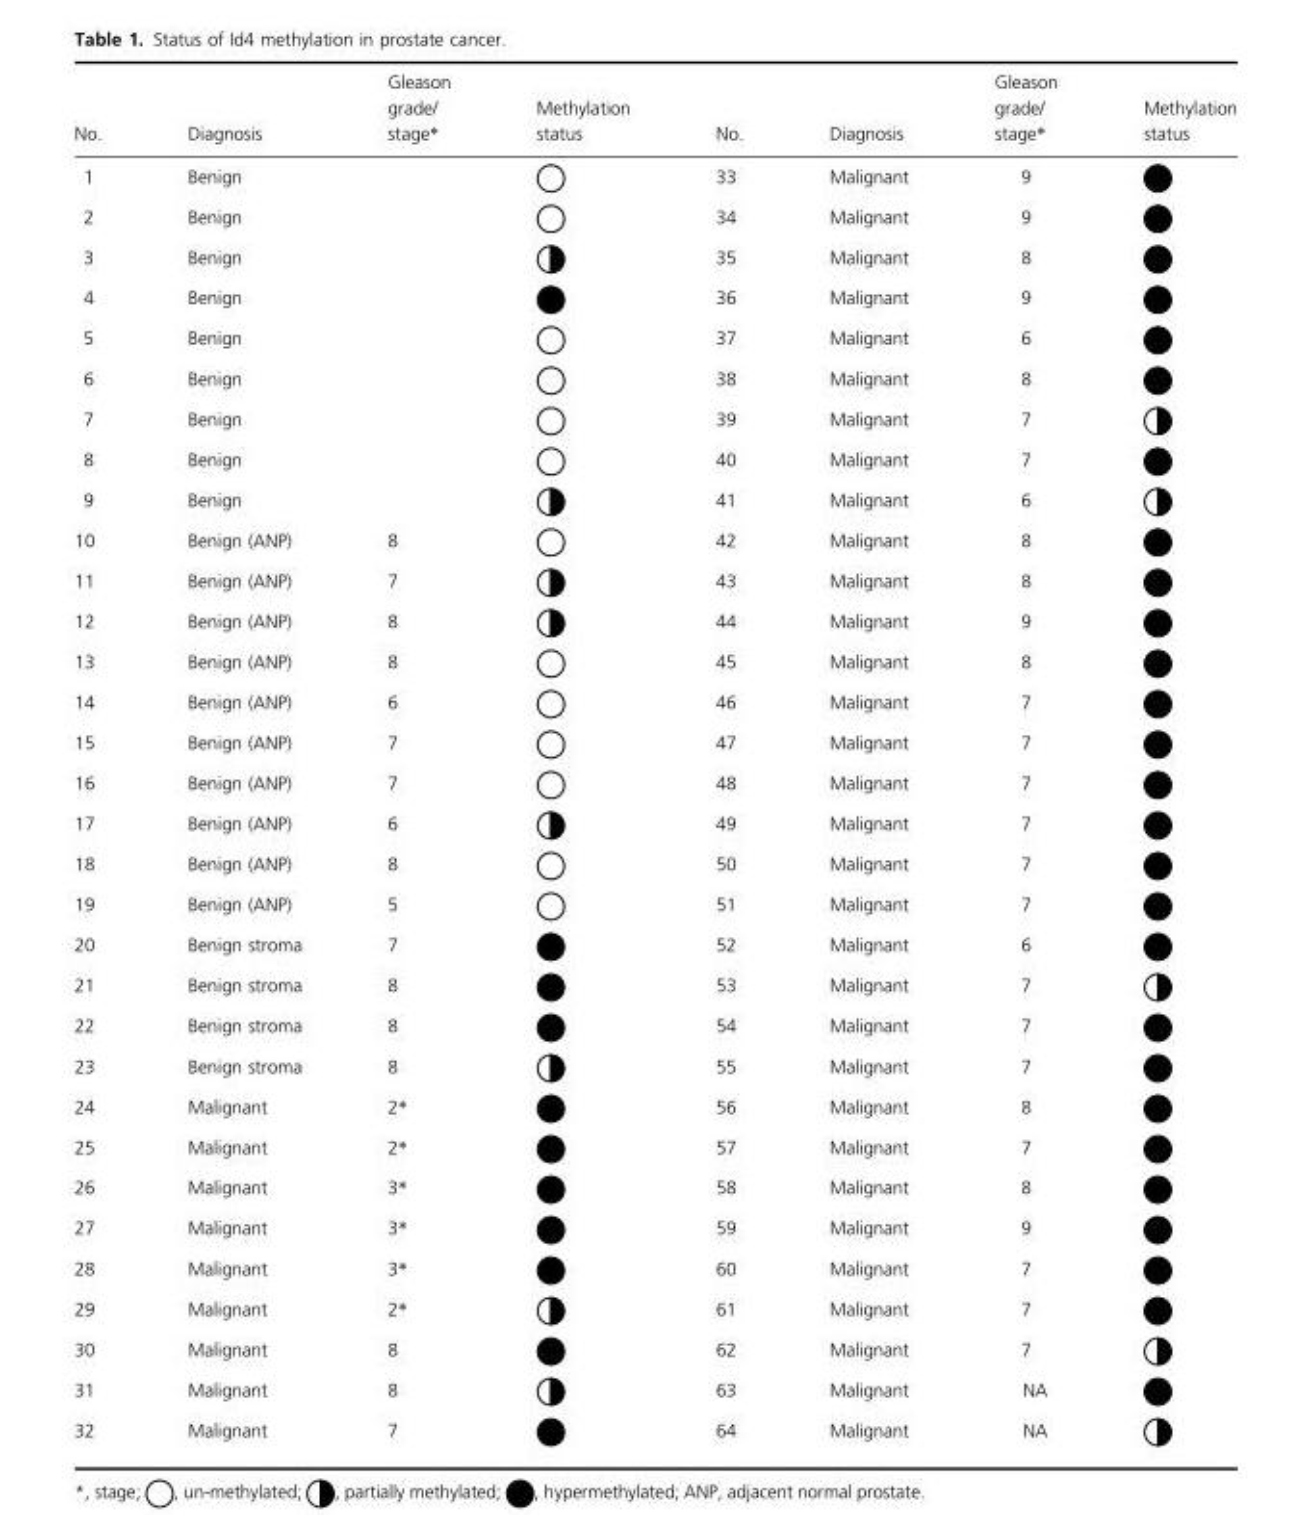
<table><thead><tr><td>No.</td><td>Diagnosis</td><td>Gleason grade/ stage*</td><td>Methylation status</td><td>No.</td><td>Diagnosis</td><td>Gleason grade/ stage*</td><td>Methylation status</td></tr></thead><tbody><tr><td>1</td><td>Benign</td><td></td><td></td><td>33</td><td>Malignant</td><td>9</td><td></td></tr><tr><td>2</td><td>Benign</td><td></td><td></td><td>34</td><td>Malignant</td><td>9</td><td></td></tr><tr><td>3</td><td>Benign</td><td></td><td></td><td>35</td><td>Malignant</td><td>8</td><td></td></tr><tr><td>4</td><td>Benign</td><td></td><td></td><td>36</td><td>Malignant</td><td>9</td><td></td></tr><tr><td>5</td><td>Benign</td><td></td><td></td><td>37</td><td>Malignant</td><td>6</td><td></td></tr><tr><td>6</td><td>Benign</td><td></td><td></td><td>38</td><td>Malignant</td><td>8</td><td></td></tr><tr><td>7</td><td>Benign</td><td></td><td></td><td>39</td><td>Malignant</td><td>7</td><td></td></tr><tr><td>8</td><td>Benign</td><td></td><td></td><td>40</td><td>Malignant</td><td>7</td><td></td></tr><tr><td>9</td><td>Benign</td><td></td><td></td><td>41</td><td>Malignant</td><td>6</td><td></td></tr><tr><td>10</td><td>Benign (ANP)</td><td>8</td><td></td><td>42</td><td>Malignant</td><td>8</td><td></td></tr><tr><td>11</td><td>Benign (ANP)</td><td>7</td><td></td><td>43</td><td>Malignant</td><td>8</td><td></td></tr><tr><td>12</td><td>Benign (ANP)</td><td>8</td><td></td><td>44</td><td>Malignant</td><td>9</td><td></td></tr><tr><td>13</td><td>Benign (ANP)</td><td>8</td><td></td><td>45</td><td>Malignant</td><td>8</td><td></td></tr><tr><td>14</td><td>Benign (ANP)</td><td>6</td><td></td><td>46</td><td>Malignant</td><td>7</td><td></td></tr><tr><td>15</td><td>Benign (ANP)</td><td>7</td><td></td><td>47</td><td>Malignant</td><td>7</td><td></td></tr><tr><td>16</td><td>Benign (ANP)</td><td>7</td><td></td><td>48</td><td>Malignant</td><td>7</td><td></td></tr><tr><td>17</td><td>Benign (ANP)</td><td>6</td><td></td><td>49</td><td>Malignant</td><td>7</td><td></td></tr><tr><td>18</td><td>Benign (ANP)</td><td>8</td><td></td><td>50</td><td>Malignant</td><td>7</td><td></td></tr><tr><td>19</td><td>Benign (ANP)</td><td>5</td><td></td><td>51</td><td>Malignant</td><td>7</td><td></td></tr><tr><td>20</td><td>Benign stroma</td><td>7</td><td></td><td>52</td><td>Malignant</td><td>6</td><td></td></tr><tr><td>21</td><td>Benign stroma</td><td>8</td><td></td><td>53</td><td>Malignant</td><td>7</td><td></td></tr><tr><td>22</td><td>Benign stroma</td><td>8</td><td></td><td>54</td><td>Malignant</td><td>7</td><td></td></tr><tr><td>23</td><td>Benign stroma</td><td>8</td><td></td><td>55</td><td>Malignant</td><td>7</td><td></td></tr><tr><td>24</td><td>Malignant</td><td>2*</td><td></td><td>56</td><td>Malignant</td><td>8</td><td></td></tr><tr><td>25</td><td>Malignant</td><td>2*</td><td></td><td>57</td><td>Malignant</td><td>7</td><td></td></tr><tr><td>26</td><td>Malignant</td><td>3*</td><td></td><td>58</td><td>Malignant</td><td>8</td><td></td></tr><tr><td>27</td><td>Malignant</td><td>3*</td><td></td><td>59</td><td>Malignant</td><td>9</td><td></td></tr><tr><td>28</td><td>Malignant</td><td>3*</td><td></td><td>60</td><td>Malignant</td><td>7</td><td></td></tr><tr><td>29</td><td>Malignant</td><td>2*</td><td></td><td>61</td><td>Malignant</td><td>7</td><td></td></tr><tr><td>30</td><td>Malignant</td><td>8</td><td></td><td>62</td><td>Malignant</td><td>7</td><td></td></tr><tr><td>31</td><td>Malignant</td><td>8</td><td></td><td>63</td><td>Malignant</td><td>NA</td><td></td></tr><tr><td>32</td><td>Malignant</td><td>7</td><td></td><td>64</td><td>Malignant</td><td>NA</td><td></td></tr></tbody></table>